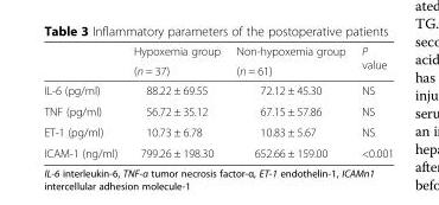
<table><thead><tr><td rowspan="2"></td><td rowspan="2">Hypoxemia group (n = 37)</td><td rowspan="2">Non-hypoxemia group (n = 61)</td><td rowspan="2">P value</td></tr><tr></tr></thead><tbody><tr><td>IL-6 (pg/ml)</td><td>88.22 ± 69.55</td><td>72.12 ± 45.30</td><td>NS</td></tr><tr><td>TNF (pg/ml)</td><td>56.72 ± 35.12</td><td>67.15 ± 57.86</td><td>NS</td></tr><tr><td>ET-1 (pg/ml)</td><td>10.73 ± 6.78</td><td>10.83 ± 5.67</td><td>NS</td></tr><tr><td>ICAM-1 (ng/ml)</td><td>799.26 ± 198.30</td><td>652.66 ± 159.00</td><td>&lt;0.001</td></tr></tbody></table>